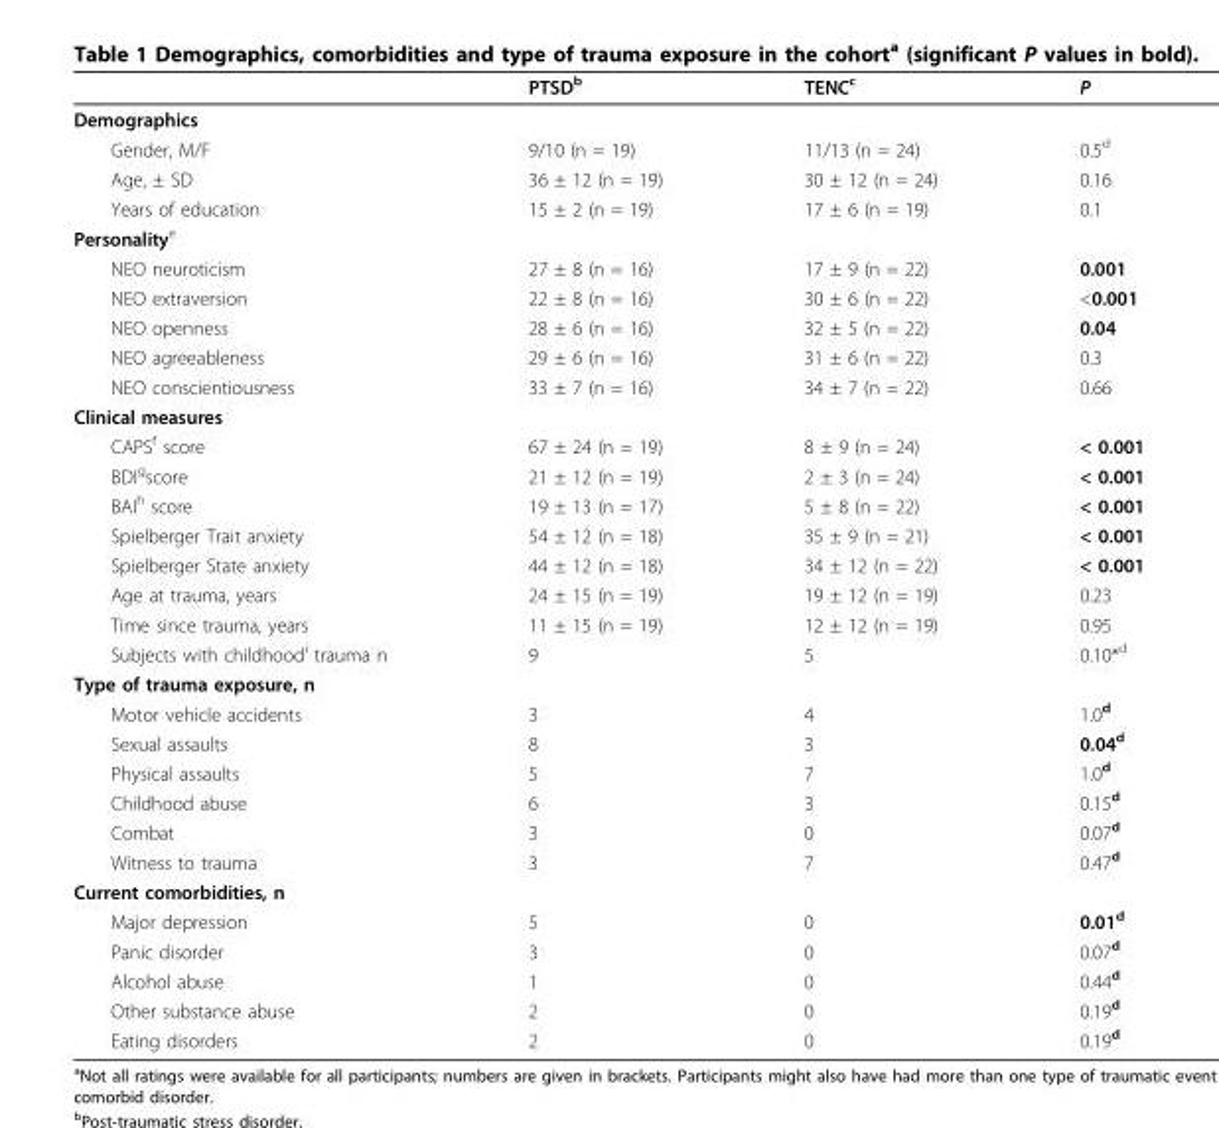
<table><thead><tr><td></td><td>PTSD<sup>b</sup></td><td>TENC<sup>c</sup></td><td>P</td></tr></thead><tbody><tr><td colspan="4">Demographics</td></tr><tr><td>Gender, M/F</td><td>9/10 (n = 19)</td><td>11/13 (n = 24)</td><td>0.5<sup>d</sup></td></tr><tr><td>Age, ± SD</td><td>36 ± 12 (n = 19)</td><td>30 ± 12 (n = 24)</td><td>0.16</td></tr><tr><td>Years of education</td><td>15 ± 2 (n = 19)</td><td>17 ± 6 (n = 19)</td><td>0.1</td></tr><tr><td colspan="4">Personality<sup>e</sup></td></tr><tr><td>NEO neuroticism</td><td>27 ± 8 (n = 16)</td><td>17 ± 9 (n = 22)</td><td>0.001</td></tr><tr><td>NEO extraversion</td><td>22 ± 8 (n = 16)</td><td>30 ± 6 (n = 22)</td><td>&lt;0.001</td></tr><tr><td>NEO openness</td><td>28 ± 6 (n = 16)</td><td>32 ± 5 (n = 22)</td><td>0.04</td></tr><tr><td>NEO agreeableness</td><td>29 ± 6 (n = 16)</td><td>31 ± 6 (n = 22)</td><td>0.3</td></tr><tr><td>NEO conscientiousness</td><td>33 ± 7 (n = 16)</td><td>34 ± 7 (n = 22)</td><td>0.66</td></tr><tr><td colspan="4">Clinical measures</td></tr><tr><td>CAPS<sup>f</sup> score</td><td>67 ± 24 (n = 19)</td><td>8 ± 9 (n = 24)</td><td>&lt; 0.001</td></tr><tr><td>BDI<sup>g</sup>score</td><td>21 ± 12 (n = 19)</td><td>2 ± 3 (n = 24)</td><td>&lt; 0.001</td></tr><tr><td>BAI<sup>h</sup> score</td><td>19 ± 13 (n = 17)</td><td>5 ± 8 (n = 22)</td><td>&lt; 0.001</td></tr><tr><td>Spielberger Trait anxiety</td><td>54 ± 12 (n = 18)</td><td>35 ± 9 (n = 21)</td><td>&lt; 0.001</td></tr><tr><td>Spielberger State anxiety</td><td>44 ± 12 (n = 18)</td><td>34 ± 12 (n = 22)</td><td>&lt; 0.001</td></tr><tr><td>Age at trauma, years</td><td>24 ± 15 (n = 19)</td><td>19 ± 12 (n = 19)</td><td>0.23</td></tr><tr><td>Time since trauma, years</td><td>11 ± 15 (n = 19)</td><td>12 ± 12 (n = 19)</td><td>0.95</td></tr><tr><td>Subjects with childhood<sup>i</sup> trauma n</td><td>9</td><td>5</td><td>0.10*<sup>d</sup></td></tr><tr><td colspan="4">Type of trauma exposure, n</td></tr><tr><td>Motor vehicle accidents</td><td>3</td><td>4</td><td>1.0<sup>d</sup></td></tr><tr><td>Sexual assaults</td><td>8</td><td>3</td><td>0.04<sup>d</sup></td></tr><tr><td>Physical assaults</td><td>5</td><td>7</td><td>1.0<sup>d</sup></td></tr><tr><td>Childhood abuse</td><td>6</td><td>3</td><td>0.15<sup>d</sup></td></tr><tr><td>Combat</td><td>3</td><td>0</td><td>0.07<sup>d</sup></td></tr><tr><td>Witness to trauma</td><td>3</td><td>7</td><td>0.47<sup>d</sup></td></tr><tr><td colspan="4">Current comorbidities, n</td></tr><tr><td>Major depression</td><td>5</td><td>0</td><td>0.01<sup>d</sup></td></tr><tr><td>Panic disorder</td><td>3</td><td>0</td><td>0.07<sup>d</sup></td></tr><tr><td>Alcohol abuse</td><td>1</td><td>0</td><td>0.44<sup>d</sup></td></tr><tr><td>Other substance abuse</td><td>2</td><td>0</td><td>0.19<sup>d</sup></td></tr><tr><td>Eating disorders</td><td>2</td><td>0</td><td>0.19<sup>d</sup></td></tr></tbody></table>